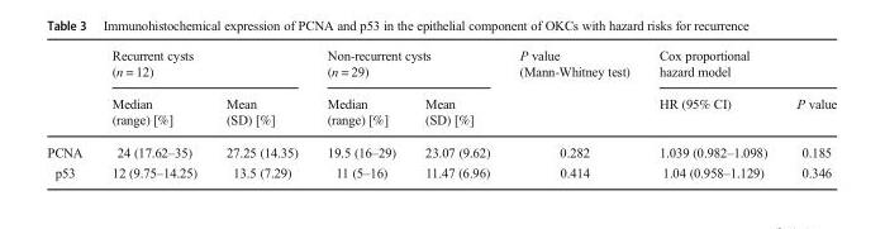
<table><thead><tr><td rowspan="2"></td><td colspan="2">Recurrent cysts (n = 12)</td><td colspan="2">Non-recurrent cysts (n = 29)</td><td rowspan="2">P value (Mann-Whitney test)</td><td colspan="2">Cox proportional hazard model</td></tr><tr><td>Median (range) [%]</td><td>Mean (SD) [%]</td><td>Median (range) [%]</td><td>Mean (SD) [%]</td><td>HR (95% CI)</td><td>P value</td></tr></thead><tbody><tr><td>PCNA</td><td>24 (17.62–35)</td><td>27.25 (14.35)</td><td>19.5 (16–29)</td><td>23.07 (9.62)</td><td>0.282</td><td>1.039 (0.982–1.098)</td><td>0.185</td></tr><tr><td>p53</td><td>12 (9.75–14.25)</td><td>13.5 (7.29)</td><td>11 (5–16)</td><td>11.47 (6.96)</td><td>0.414</td><td>1.04 (0.958–1.129)</td><td>0.346</td></tr></tbody></table>